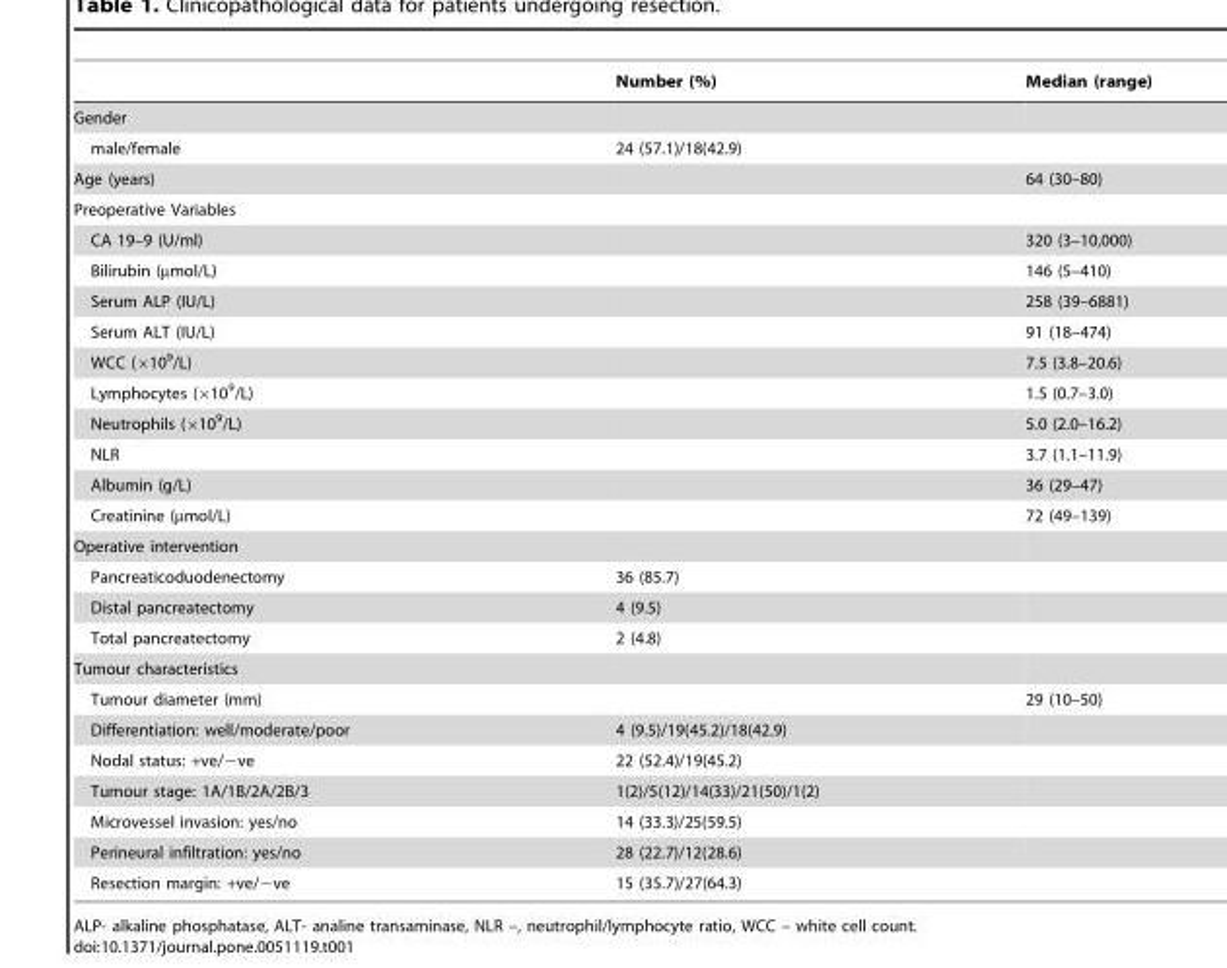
<table><thead><tr><td></td><td>Number (%)</td><td>Median (range)</td></tr></thead><tbody><tr><td colspan="3">Gender</td></tr><tr><td>male/female</td><td>24 (57.1)/18(42.9)</td><td></td></tr><tr><td>Age (years)</td><td></td><td>64 (30–80)</td></tr><tr><td colspan="3">Preoperative Variables</td></tr><tr><td>CA 19–9 (U/ml)</td><td></td><td>320 (3–10,000)</td></tr><tr><td>Bilirubin (µmol/L)</td><td></td><td>146 (5–410)</td></tr><tr><td>Serum ALP (IU/L)</td><td></td><td>258 (39–6881)</td></tr><tr><td>Serum ALT (IU/L)</td><td></td><td>91 (18–474)</td></tr><tr><td>WCC (×10<sup>9</sup>/L)</td><td></td><td>7.5 (3.8–20.6)</td></tr><tr><td>Lymphocytes (×10<sup>9</sup>/L)</td><td></td><td>1.5 (0.7–3.0)</td></tr><tr><td>Neutrophils (×10<sup>9</sup>/L)</td><td></td><td>5.0 (2.0–16.2)</td></tr><tr><td>NLR</td><td></td><td>3.7 (1.1–11.9)</td></tr><tr><td>Albumin (g/L)</td><td></td><td>36 (29–47)</td></tr><tr><td>Creatinine (µmol/L)</td><td></td><td>72 (49–139)</td></tr><tr><td colspan="3">Operative intervention</td></tr><tr><td>Pancreaticoduodenectomy</td><td>36 (85.7)</td><td></td></tr><tr><td>Distal pancreatectomy</td><td>4 (9.5)</td><td></td></tr><tr><td>Total pancreatectomy</td><td>2 (4.8)</td><td></td></tr><tr><td colspan="3">Tumour characteristics</td></tr><tr><td>Tumour diameter (mm)</td><td></td><td>29 (10–50)</td></tr><tr><td>Differentiation: well/moderate/poor</td><td>4 (9.5)/19(45.2)/18(42.9)</td><td></td></tr><tr><td>Nodal status: +ve/−ve</td><td>22 (52.4)/19(45.2)</td><td></td></tr><tr><td>Tumour stage: 1A/1B/2A/2B/3</td><td>1(2)/5(12)/14(33)/21(50)/1(2)</td><td></td></tr><tr><td>Microvessel invasion: yes/no</td><td>14 (33.3)/25(59.5)</td><td></td></tr><tr><td>Perineural infiltration: yes/no</td><td>28 (22.7)/12(28.6)</td><td></td></tr><tr><td>Resection margin: +ve/−ve</td><td>15 (35.7)/27(64.3)</td><td></td></tr></tbody></table>